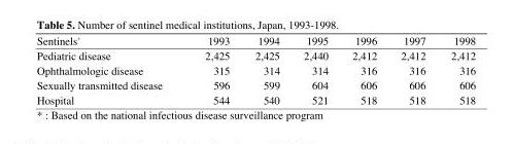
<table><thead><tr><td>Sentinels*</td><td>1993</td><td>1994</td><td>1995</td><td>1996</td><td>1997</td><td>1998</td></tr></thead><tbody><tr><td>Pediatric disease</td><td>2,425</td><td>2,425</td><td>2,440</td><td>2,412</td><td>2,412</td><td>2,412</td></tr><tr><td>Ophthalmologic disease</td><td>315</td><td>314</td><td>314</td><td>316</td><td>316</td><td>316</td></tr><tr><td>Sexually transmitted disease</td><td>596</td><td>599</td><td>604</td><td>606</td><td>606</td><td>606</td></tr><tr><td>Hospital</td><td>544</td><td>540</td><td>521</td><td>518</td><td>518</td><td>518</td></tr></tbody></table>